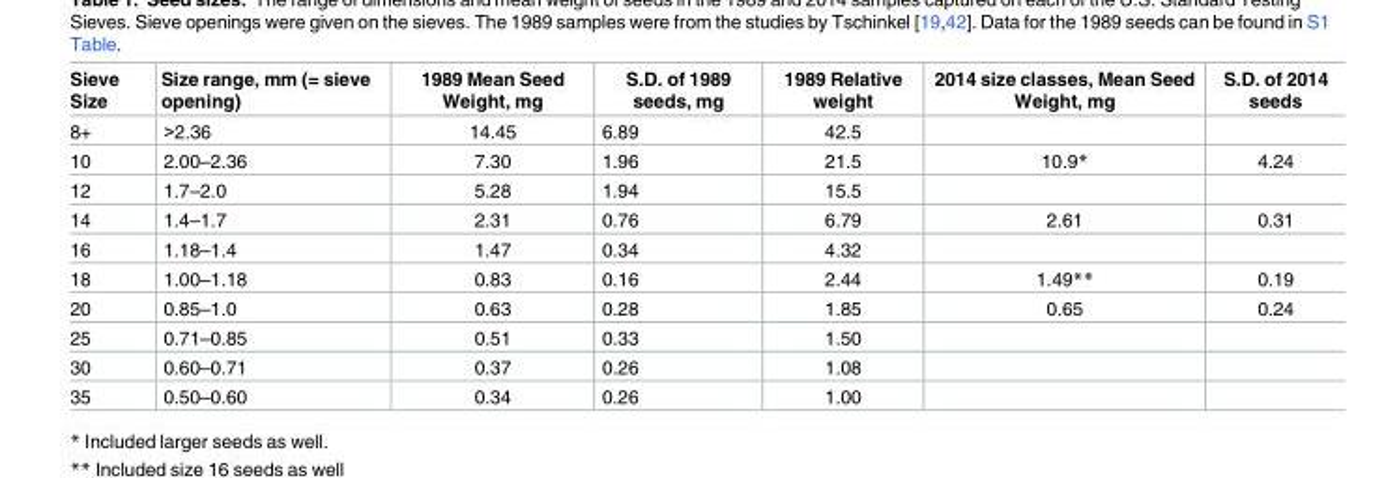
<table><thead><tr><td>Sieve Size</td><td>Size range, mm (= sieve opening)</td><td>1989 Mean Seed Weight, mg</td><td>S.D. of 1989 seeds, mg</td><td>1989 Relative weight</td><td>2014 size classes, Mean Seed Weight, mg</td><td>S.D. of 2014 seeds</td></tr></thead><tbody><tr><td>8+</td><td>&gt;2.36</td><td>14.45</td><td>6.89</td><td>42.5</td><td></td><td></td></tr><tr><td>10</td><td>2.00–2.36</td><td>7.30</td><td>1.96</td><td>21.5</td><td>10.9*</td><td>4.24</td></tr><tr><td>12</td><td>1.7–2.0</td><td>5.28</td><td>1.94</td><td>15.5</td><td></td><td></td></tr><tr><td>14</td><td>1.4–1.7</td><td>2.31</td><td>0.76</td><td>6.79</td><td>2.61</td><td>0.31</td></tr><tr><td>16</td><td>1.18–1.4</td><td>1.47</td><td>0.34</td><td>4.32</td><td></td><td></td></tr><tr><td>18</td><td>1.00–1.18</td><td>0.83</td><td>0.16</td><td>2.44</td><td>1.49**</td><td>0.19</td></tr><tr><td>20</td><td>0.85–1.0</td><td>0.63</td><td>0.28</td><td>1.85</td><td>0.65</td><td>0.24</td></tr><tr><td>25</td><td>0.71–0.85</td><td>0.51</td><td>0.33</td><td>1.50</td><td></td><td></td></tr><tr><td>30</td><td>0.60–0.71</td><td>0.37</td><td>0.26</td><td>1.08</td><td></td><td></td></tr><tr><td>35</td><td>0.50–0.60</td><td>0.34</td><td>0.26</td><td>1.00</td><td></td><td></td></tr></tbody></table>